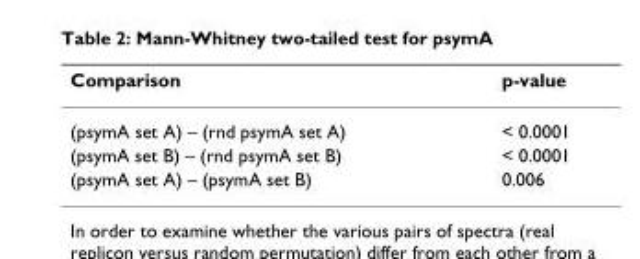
<table><thead><tr><td>Comparison</td><td>p-value</td></tr></thead><tbody><tr><td>(psymA set A) – (rnd psymA set A)</td><td>&lt; 0.0001</td></tr><tr><td>(psymA set B) – (rnd psymA set B)</td><td>&lt; 0.0001</td></tr><tr><td>(psymA set A) – (psymA set B)</td><td>0.006</td></tr></tbody></table>